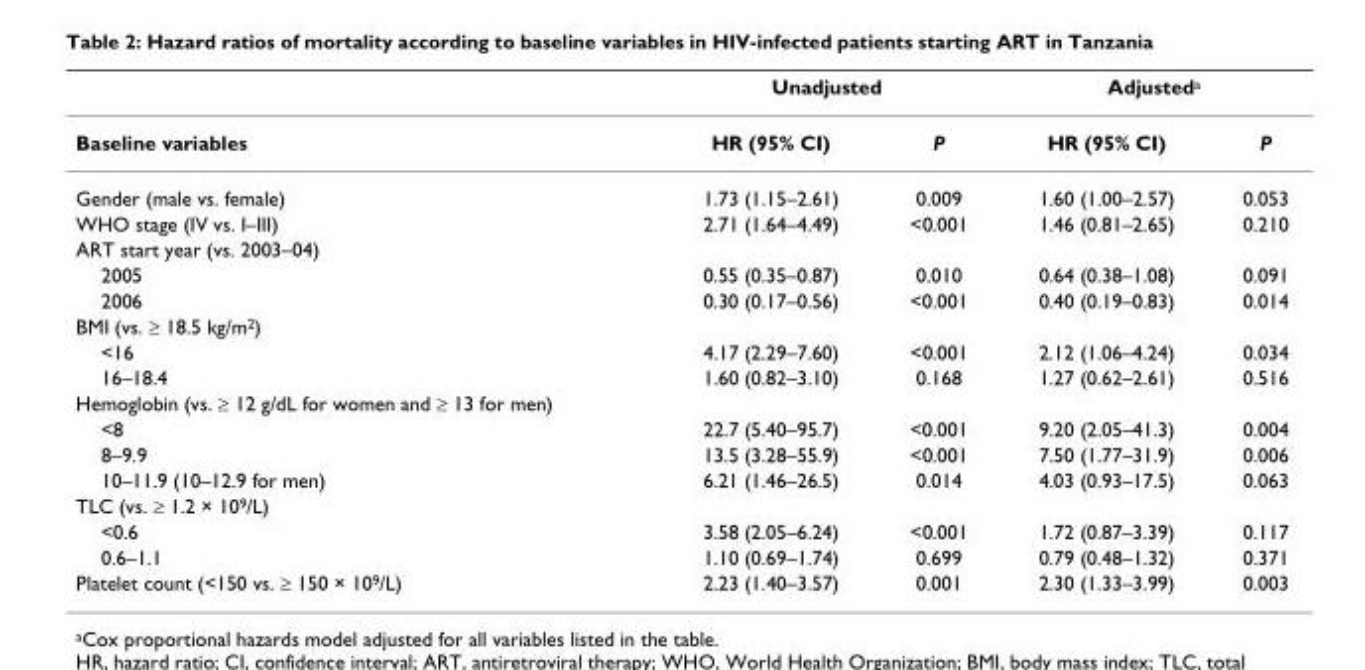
<table><thead><tr><td rowspan="2">Baseline variables</td><td colspan="2">Unadjusted</td><td colspan="2">Adjusted<sup>a</sup></td></tr><tr><td>HR (95% CI)</td><td>P</td><td>HR (95% CI)</td><td>P</td></tr></thead><tbody><tr><td>Gender (male vs. female)</td><td>1.73 (1.15–2.61)</td><td>0.009</td><td>1.60 (1.00–2.57)</td><td>0.053</td></tr><tr><td>WHO stage (IV vs. I–III)</td><td>2.71 (1.64–4.49)</td><td>&lt;0.001</td><td>1.46 (0.81–2.65)</td><td>0.210</td></tr><tr><td colspan="5">ART start year (vs. 2003–04)</td></tr><tr><td>2005</td><td>0.55 (0.35–0.87)</td><td>0.010</td><td>0.64 (0.38–1.08)</td><td>0.091</td></tr><tr><td>2006</td><td>0.30 (0.17–0.56)</td><td>&lt;0.001</td><td>0.40 (0.19–0.83)</td><td>0.014</td></tr><tr><td colspan="5">BMI (vs. ≥ 18.5 kg/m<sup>2</sup>)</td></tr><tr><td>&lt;16</td><td>4.17 (2.29–7.60)</td><td>&lt;0.001</td><td>2.12 (1.06–4.24)</td><td>0.034</td></tr><tr><td>16–18.4</td><td>1.60 (0.82–3.10)</td><td>0.168</td><td>1.27 (0.62–2.61)</td><td>0.516</td></tr><tr><td colspan="5">Hemoglobin (vs. ≥ 12 g/dL for women and ≥ 13 for men)</td></tr><tr><td>&lt;8</td><td>22.7 (5.40–95.7)</td><td>&lt;0.001</td><td>9.20 (2.05–41.3)</td><td>0.004</td></tr><tr><td>8–9.9</td><td>13.5 (3.28–55.9)</td><td>&lt;0.001</td><td>7.50 (1.77–31.9)</td><td>0.006</td></tr><tr><td>10–11.9 (10–12.9 for men)</td><td>6.21 (1.46–26.5)</td><td>0.014</td><td>4.03 (0.93–17.5)</td><td>0.063</td></tr><tr><td colspan="5">TLC (vs. ≥ 1.2 × 10<sup>9</sup>/L)</td></tr><tr><td>&lt;0.6</td><td>3.58 (2.05–6.24)</td><td>&lt;0.001</td><td>1.72 (0.87–3.39)</td><td>0.117</td></tr><tr><td>0.6–1.1</td><td>1.10 (0.69–1.74)</td><td>0.699</td><td>0.79 (0.48–1.32)</td><td>0.371</td></tr><tr><td>Platelet count (&lt;150 vs. ≥ 150 × 10<sup>9</sup>/L)</td><td>2.23 (1.40–3.57)</td><td>0.001</td><td>2.30 (1.33–3.99)</td><td>0.003</td></tr></tbody></table>